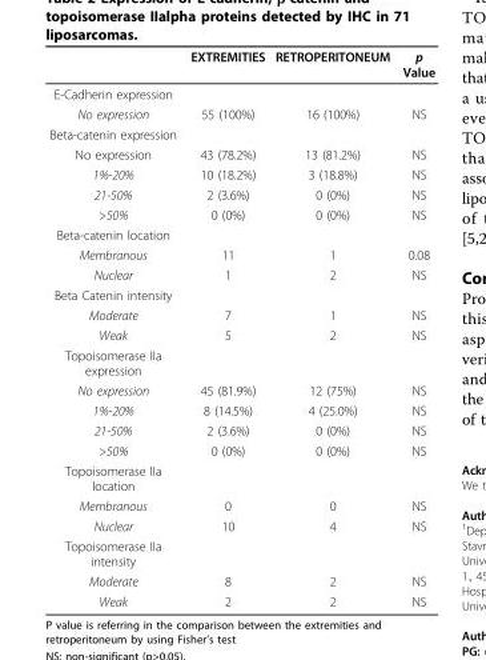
<table><thead><tr><td></td><td>EXTREMITIES</td><td>RETROPERITONEUM</td><td>p Value</td></tr></thead><tbody><tr><td colspan="4">E-Cadherin expression</td></tr><tr><td>No expression</td><td>55 (100%)</td><td>16 (100%)</td><td>NS</td></tr><tr><td colspan="4">Beta-catenin expression</td></tr><tr><td>No expression</td><td>43 (78.2%)</td><td>13 (81.2%)</td><td>NS</td></tr><tr><td>1%-20%</td><td>10 (18.2%)</td><td>3 (18.8%)</td><td>NS</td></tr><tr><td>21-50%</td><td>2 (3.6%)</td><td>0 (0%)</td><td>NS</td></tr><tr><td>&gt;50%</td><td>0 (0%)</td><td>0 (0%)</td><td>NS</td></tr><tr><td colspan="4">Beta-catenin location</td></tr><tr><td>Membranous</td><td>11</td><td>1</td><td>0.08</td></tr><tr><td>Nuclear</td><td>1</td><td>2</td><td>NS</td></tr><tr><td colspan="4">Beta Catenin intensity</td></tr><tr><td>Moderate</td><td>7</td><td>1</td><td>NS</td></tr><tr><td>Weak</td><td>5</td><td>2</td><td>NS</td></tr><tr><td colspan="4">Topoisomerase IIa expression</td></tr><tr><td>No expression</td><td>45 (81.9%)</td><td>12 (75%)</td><td>NS</td></tr><tr><td>1%-20%</td><td>8 (14.5%)</td><td>4 (25.0%)</td><td>NS</td></tr><tr><td>21-50%</td><td>2 (3.6%)</td><td>0 (0%)</td><td>NS</td></tr><tr><td>&gt;50%</td><td>0 (0%)</td><td>0 (0%)</td><td>NS</td></tr><tr><td colspan="4">Topoisomerase IIa location</td></tr><tr><td>Membranous</td><td>0</td><td>0</td><td>NS</td></tr><tr><td>Nuclear</td><td>10</td><td>4</td><td>NS</td></tr><tr><td colspan="4">Topoisomerase IIa intensity</td></tr><tr><td>Moderate</td><td>8</td><td>2</td><td>NS</td></tr><tr><td>Weak</td><td>2</td><td>2</td><td>NS</td></tr></tbody></table>